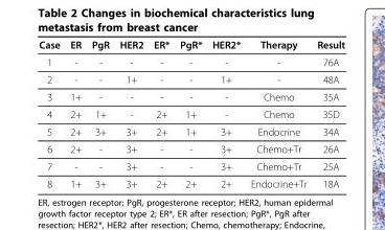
<table><thead><tr><td>Case</td><td>ER</td><td>PgR</td><td>HER2</td><td>ER*</td><td>PgR*</td><td>HER2*</td><td>Therapy</td><td>Result</td></tr></thead><tbody><tr><td>1</td><td>-</td><td>-</td><td>-</td><td>-</td><td>-</td><td>-</td><td>-</td><td>76A</td></tr><tr><td>2</td><td>-</td><td>-</td><td>1+</td><td>-</td><td>-</td><td>1+</td><td>-</td><td>48A</td></tr><tr><td>3</td><td>1+</td><td>-</td><td>-</td><td>-</td><td>-</td><td>-</td><td>Chemo</td><td>35A</td></tr><tr><td>4</td><td>2+</td><td>1+</td><td>-</td><td>2+</td><td>1+</td><td>-</td><td>Chemo</td><td>35D</td></tr><tr><td>5</td><td>2+</td><td>3+</td><td>3+</td><td>2+</td><td>1+</td><td>3+</td><td>Endocrine</td><td>34A</td></tr><tr><td>6</td><td>2+</td><td>-</td><td>3+</td><td>-</td><td>-</td><td>3+</td><td>Chemo+Tr</td><td>26A</td></tr><tr><td>7</td><td>-</td><td>-</td><td>3+</td><td>-</td><td>-</td><td>3+</td><td>Chemo+Tr</td><td>25A</td></tr><tr><td>8</td><td>1+</td><td>3+</td><td>3+</td><td>2+</td><td>2+</td><td>2+</td><td>Endocrine+Tr</td><td>18A</td></tr></tbody></table>